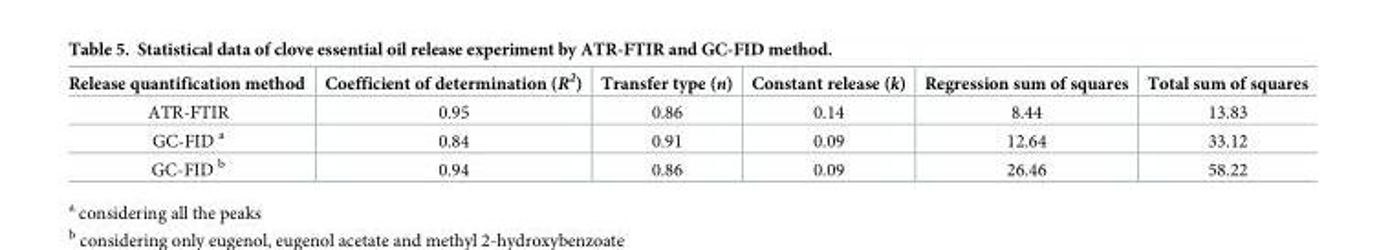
<table><thead><tr><td>Release quantification method</td><td>Coefficient of determination (R<sup>2</sup>)</td><td>Transfer type (n)</td><td>Constant release (k)</td><td>Regression sum of squares</td><td>Total sum of squares</td></tr></thead><tbody><tr><td>ATR-FTIR</td><td>0.95</td><td>0.86</td><td>0.14</td><td>8.44</td><td>13.83</td></tr><tr><td>GC-FID <sup>a</sup></td><td>0.84</td><td>0.91</td><td>0.09</td><td>12.64</td><td>33.12</td></tr><tr><td>GC-FID <sup>b</sup></td><td>0.94</td><td>0.86</td><td>0.09</td><td>26.46</td><td>58.22</td></tr></tbody></table>